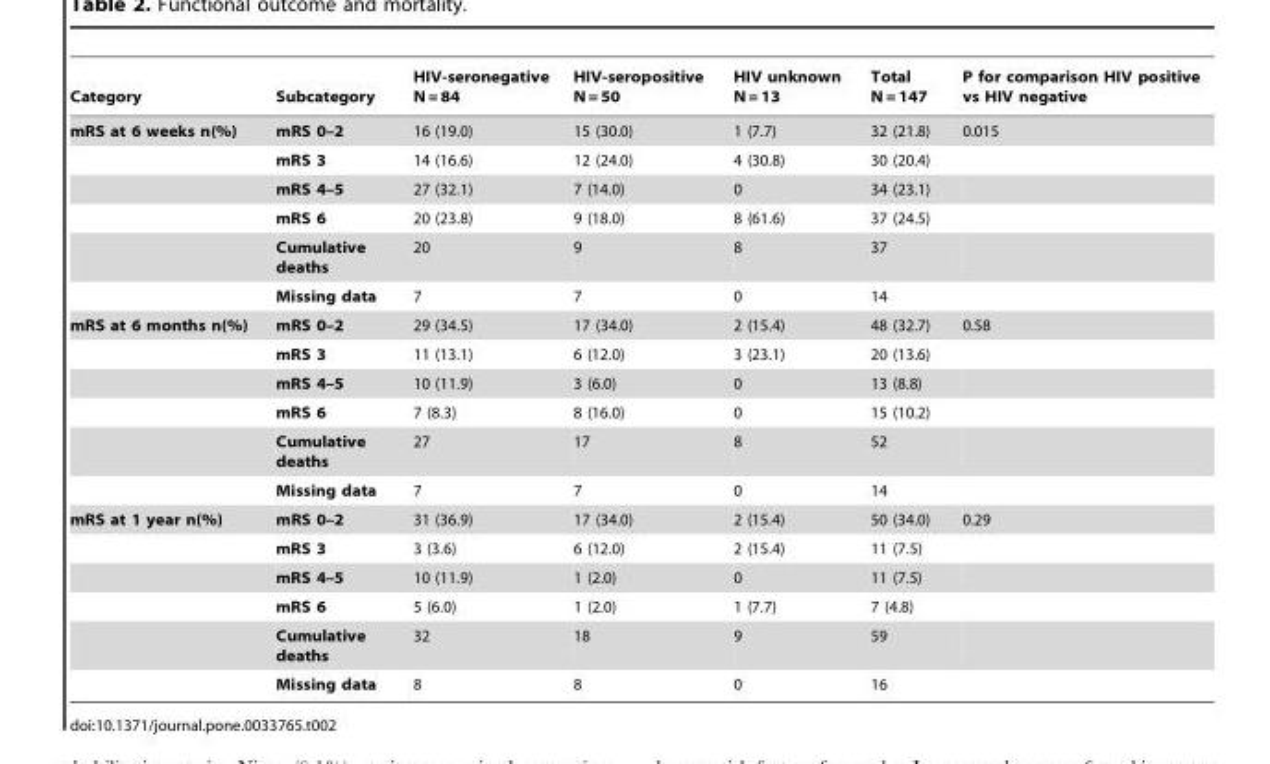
<table><thead><tr><td>Category</td><td>Subcategory</td><td>HIV-seronegative N = 84</td><td>HIV-seropositive N = 50</td><td>HIV unknown N = 13</td><td>Total N = 147</td><td>P for comparison HIV positive vs HIV negative</td></tr></thead><tbody><tr><td rowspan="6">mRS at 6 weeks n(%)</td><td>mRS 0–2</td><td>16 (19.0)</td><td>15 (30.0)</td><td>1 (7.7)</td><td>32 (21.8)</td><td>0.015</td></tr><tr><td>mRS 3</td><td>14 (16.6)</td><td>12 (24.0)</td><td>4 (30.8)</td><td>30 (20.4)</td><td></td></tr><tr><td>mRS 4–5</td><td>27 (32.1)</td><td>7 (14.0)</td><td>0</td><td>34 (23.1)</td><td></td></tr><tr><td>mRS 6</td><td>20 (23.8)</td><td>9 (18.0)</td><td>8 (61.6)</td><td>37 (24.5)</td><td></td></tr><tr><td>Cumulative deaths</td><td>20</td><td>9</td><td>8</td><td>37</td><td></td></tr><tr><td>Missing data</td><td>7</td><td>7</td><td>0</td><td>14</td><td></td></tr><tr><td rowspan="6">mRS at 6 months n(%)</td><td>mRS 0–2</td><td>29 (34.5)</td><td>17 (34.0)</td><td>2 (15.4)</td><td>48 (32.7)</td><td>0.58</td></tr><tr><td>mRS 3</td><td>11 (13.1)</td><td>6 (12.0)</td><td>3 (23.1)</td><td>20 (13.6)</td><td></td></tr><tr><td>mRS 4–5</td><td>10 (11.9)</td><td>3 (6.0)</td><td>0</td><td>13 (8.8)</td><td></td></tr><tr><td>mRS 6</td><td>7 (8.3)</td><td>8 (16.0)</td><td>0</td><td>15 (10.2)</td><td></td></tr><tr><td>Cumulative deaths</td><td>27</td><td>17</td><td>8</td><td>52</td><td></td></tr><tr><td>Missing data</td><td>7</td><td>7</td><td>0</td><td>14</td><td></td></tr><tr><td rowspan="6">mRS at 1 year n(%)</td><td>mRS 0–2</td><td>31 (36.9)</td><td>17 (34.0)</td><td>2 (15.4)</td><td>50 (34.0)</td><td>0.29</td></tr><tr><td>mRS 3</td><td>3 (3.6)</td><td>6 (12.0)</td><td>2 (15.4)</td><td>11 (7.5)</td><td></td></tr><tr><td>mRS 4–5</td><td>10 (11.9)</td><td>1 (2.0)</td><td>0</td><td>11 (7.5)</td><td></td></tr><tr><td>mRS 6</td><td>5 (6.0)</td><td>1 (2.0)</td><td>1 (7.7)</td><td>7 (4.8)</td><td></td></tr><tr><td>Cumulative deaths</td><td>32</td><td>18</td><td>9</td><td>59</td><td></td></tr><tr><td>Missing data</td><td>8</td><td>8</td><td>0</td><td>16</td><td></td></tr></tbody></table>